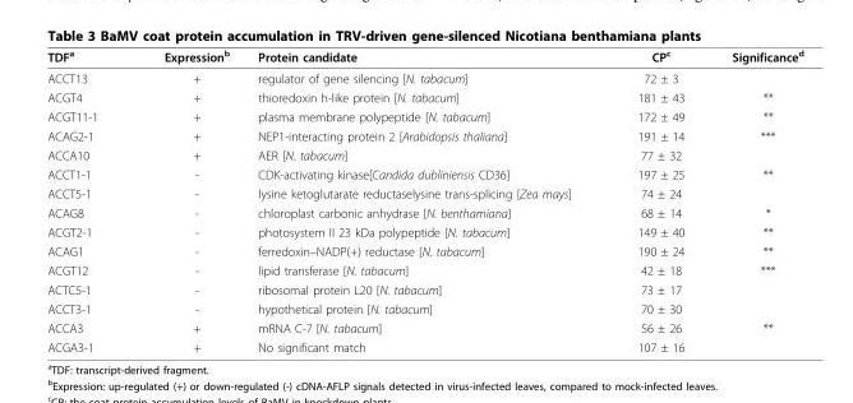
<table><thead><tr><td>TDF<sup>a</sup></td><td>Expression<sup>b</sup></td><td>Protein candidate</td><td>CP<sup>c</sup></td><td>Significance<sup>d</sup></td></tr></thead><tbody><tr><td>ACCT13</td><td>+</td><td>regulator of gene silencing [N. tabacum]</td><td>72 ± 3</td><td></td></tr><tr><td>ACGT4</td><td>+</td><td>thioredoxin h-like protein [N. tabacum]</td><td>181 ± 43</td><td>**</td></tr><tr><td>ACGT11-1</td><td>+</td><td>plasma membrane polypeptide [N. tabacum]</td><td>172 ± 49</td><td>**</td></tr><tr><td>ACAG2-1</td><td>+</td><td>NEP1-interacting protein 2 [Arabidopsis thaliana]</td><td>191 ± 14</td><td>***</td></tr><tr><td>ACCA10</td><td>+</td><td>AER [N. tabacum]</td><td>77 ± 32</td><td></td></tr><tr><td>ACCT1-1</td><td>-</td><td>CDK-activating kinase[Candida dubliniensis CD36]</td><td>197 ± 25</td><td>**</td></tr><tr><td>ACCT5-1</td><td>-</td><td>lysine ketoglutarate reductaselysine trans-splicing [Zea mays]</td><td>74 ± 24</td><td></td></tr><tr><td>ACAG8</td><td>-</td><td>chloroplast carbonic anhydrase [N. benthamiana]</td><td>68 ± 14</td><td>*</td></tr><tr><td>ACGT2-1</td><td>-</td><td>photosystem II 23 kDa polypeptide [N. tabacum]</td><td>149 ± 40</td><td>**</td></tr><tr><td>ACAG1</td><td>-</td><td>ferredoxin–NADP(+) reductase [N. tabacum]</td><td>190 ± 24</td><td>**</td></tr><tr><td>ACGT12</td><td>-</td><td>lipid transferase [N. tabacum]</td><td>42 ± 18</td><td>***</td></tr><tr><td>ACTC5-1</td><td>-</td><td>ribosomal protein L20 [N. tabacum]</td><td>73 ± 17</td><td></td></tr><tr><td>ACCT3-1</td><td>-</td><td>hypothetical protein [N. tabacum]</td><td>70 ± 30</td><td></td></tr><tr><td>ACCA3</td><td>+</td><td>mRNA C-7 [N. tabacum]</td><td>56 ± 26</td><td>**</td></tr><tr><td>ACGA3-1</td><td>+</td><td>No significant match</td><td>107 ± 16</td><td></td></tr></tbody></table>